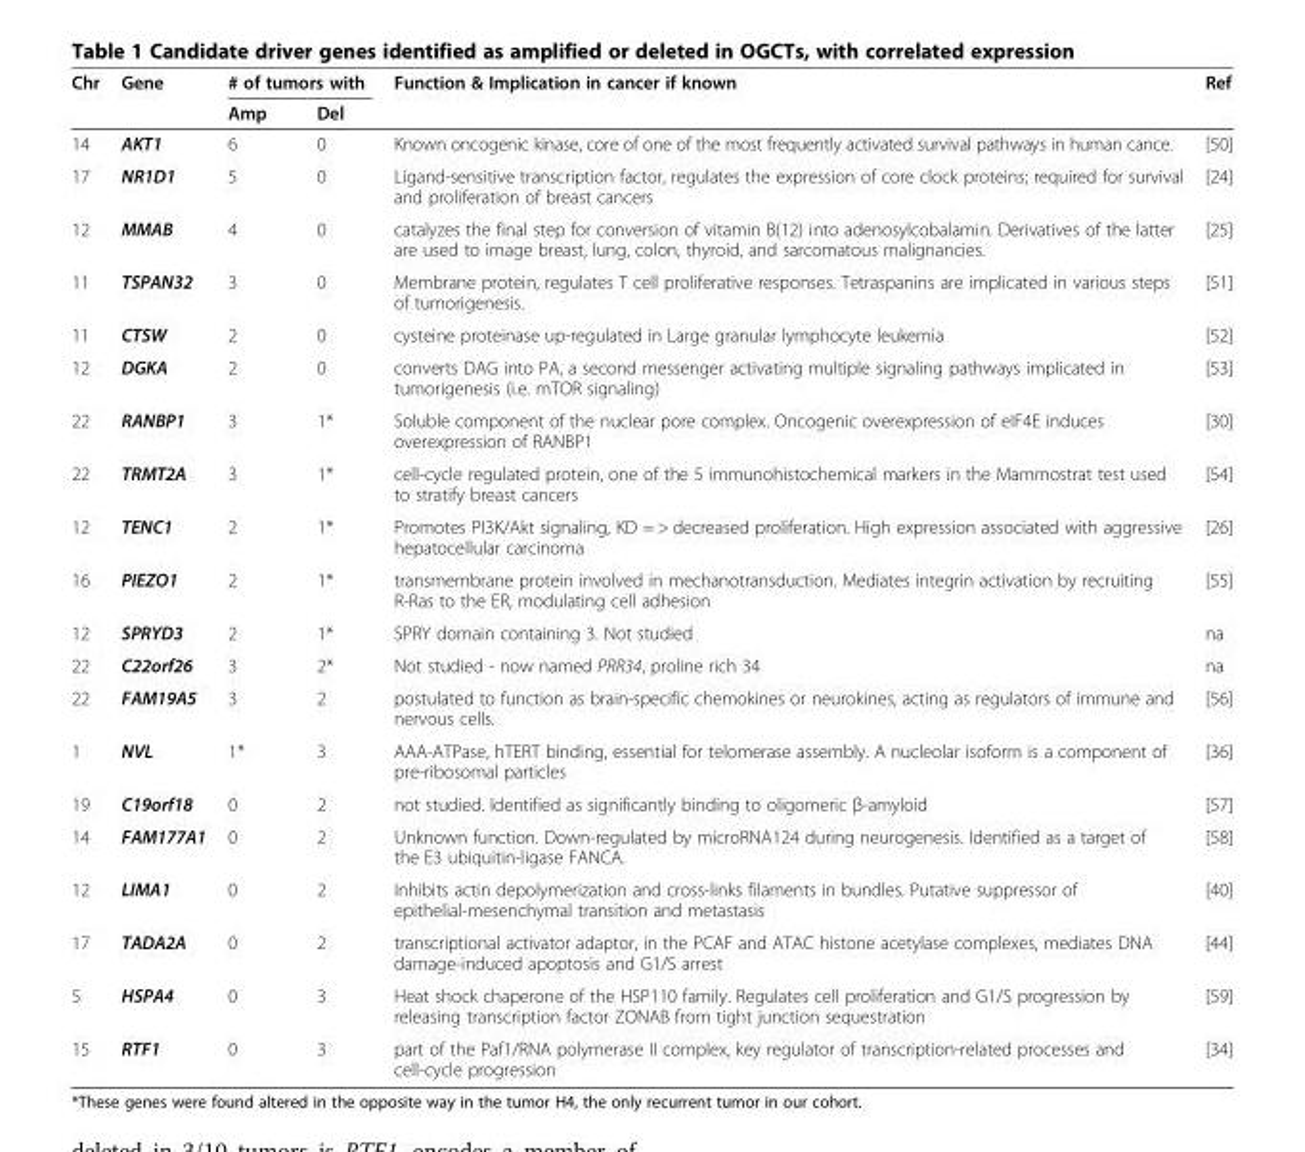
<table><thead><tr><td rowspan="2">Chr</td><td rowspan="2">Gene</td><td colspan="2"># of tumors with</td><td rowspan="2">Function &amp; Implication in cancer if known</td><td rowspan="2">Ref</td></tr><tr><td>Amp</td><td>Del</td></tr></thead><tbody><tr><td>14</td><td>AKT1</td><td>6</td><td>0</td><td>Known oncogenic kinase, core of one of the most frequently activated survival pathways in human cance.</td><td>[50]</td></tr><tr><td>17</td><td>NR1D1</td><td>5</td><td>0</td><td>Ligand-sensitive transcription factor, regulates the expression of core clock proteins; required for survival and proliferation of breast cancers</td><td>[24]</td></tr><tr><td>12</td><td>MMAB</td><td>4</td><td>0</td><td>catalyzes the final step for conversion of vitamin B(12) into adenosylcobalamin. Derivatives of the latter are used to image breast, lung, colon, thyroid, and sarcomatous malignancies.</td><td>[25]</td></tr><tr><td>11</td><td>TSPAN32</td><td>3</td><td>0</td><td>Membrane protein, regulates T cell proliferative responses. Tetraspanins are implicated in various steps of tumorigenesis.</td><td>[51]</td></tr><tr><td>11</td><td>CTSW</td><td>2</td><td>0</td><td>cysteine proteinase up-regulated in Large granular lymphocyte leukemia</td><td>[52]</td></tr><tr><td>12</td><td>DGKA</td><td>2</td><td>0</td><td>converts DAG into PA, a second messenger activating multiple signaling pathways implicated in tumorigenesis (i.e. mTOR signaling)</td><td>[53]</td></tr><tr><td>22</td><td>RANBP1</td><td>3</td><td>1*</td><td>Soluble component of the nuclear pore complex. Oncogenic overexpression of eIF4E induces overexpression of RANBP1</td><td>[30]</td></tr><tr><td>22</td><td>TRMT2A</td><td>3</td><td>1*</td><td>cell-cycle regulated protein, one of the 5 immunohistochemical markers in the Mammostrat test used to stratify breast cancers</td><td>[54]</td></tr><tr><td>12</td><td>TENC1</td><td>2</td><td>1*</td><td>Promotes PI3K/Akt signaling, KD = &gt; decreased proliferation. High expression associated with aggressive hepatocellular carcinoma</td><td>[26]</td></tr><tr><td>16</td><td>PIEZO1</td><td>2</td><td>1*</td><td>transmembrane protein involved in mechanotransduction. Mediates integrin activation by recruiting R-Ras to the ER, modulating cell adhesion</td><td>[55]</td></tr><tr><td>12</td><td>SPRYD3</td><td>2</td><td>1*</td><td>SPRY domain containing 3. Not studied</td><td>na</td></tr><tr><td>22</td><td>C22orf26</td><td>3</td><td>2*</td><td>Not studied - now named PRR34, proline rich 34</td><td>na</td></tr><tr><td>22</td><td>FAM19A5</td><td>3</td><td>2</td><td>postulated to function as brain-specific chemokines or neurokines, acting as regulators of immune and nervous cells.</td><td>[56]</td></tr><tr><td>1</td><td>NVL</td><td>1*</td><td>3</td><td>AAA-ATPase, hTERT binding, essential for telomerase assembly. A nucleolar isoform is a component of pre-ribosomal particles</td><td>[36]</td></tr><tr><td>19</td><td>C19orf18</td><td>0</td><td>2</td><td>not studied. Identified as significantly binding to oligomeric β-amyloid</td><td>[57]</td></tr><tr><td>14</td><td>FAM177A1</td><td>0</td><td>2</td><td>Unknown function. Down-regulated by microRNA124 during neurogenesis. Identified as a target of the E3 ubiquitin-ligase FANCA.</td><td>[58]</td></tr><tr><td>12</td><td>LIMA1</td><td>0</td><td>2</td><td>Inhibits actin depolymerization and cross-links filaments in bundles. Putative suppressor of epithelial-mesenchymal transition and metastasis</td><td>[40]</td></tr><tr><td>17</td><td>TADA2A</td><td>0</td><td>2</td><td>transcriptional activator adaptor, in the PCAF and ATAC histone acetylase complexes, mediates DNA damage-induced apoptosis and G1/S arrest</td><td>[44]</td></tr><tr><td>5</td><td>HSPA4</td><td>0</td><td>3</td><td>Heat shock chaperone of the HSP110 family. Regulates cell proliferation and G1/S progression by releasing transcription factor ZONAB from tight junction sequestration</td><td>[59]</td></tr><tr><td>15</td><td>RTF1</td><td>0</td><td>3</td><td>part of the Paf1/RNA polymerase II complex, key regulator of transcription-related processes and cell-cycle progression</td><td>[34]</td></tr></tbody></table>